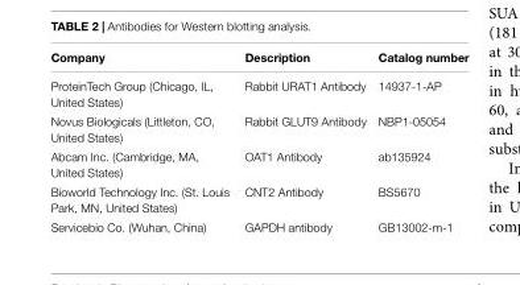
<table><thead><tr><td>Company</td><td>Description</td><td>Catalog number</td></tr></thead><tbody><tr><td>ProteinTech Group (Chicago, IL, United States)</td><td>Rabbit URAT1 Antibody</td><td>14937-1-AP</td></tr><tr><td>Novus Biologicals (Littleton, CO, United States)</td><td>Rabbit GLUT9 Antibody</td><td>NBP1-05054</td></tr><tr><td>Abcam Inc. (Cambridge, MA, United States)</td><td>OAT1 Antibody</td><td>ab135924</td></tr><tr><td>Bioworld Technology Inc. (St. Louis Park, MN, United States)</td><td>CNT2 Antibody</td><td>BS5670</td></tr><tr><td>Servicebio Co. (Wuhan, China)</td><td>GAPDH antibody</td><td>GB13002-m-1</td></tr></tbody></table>